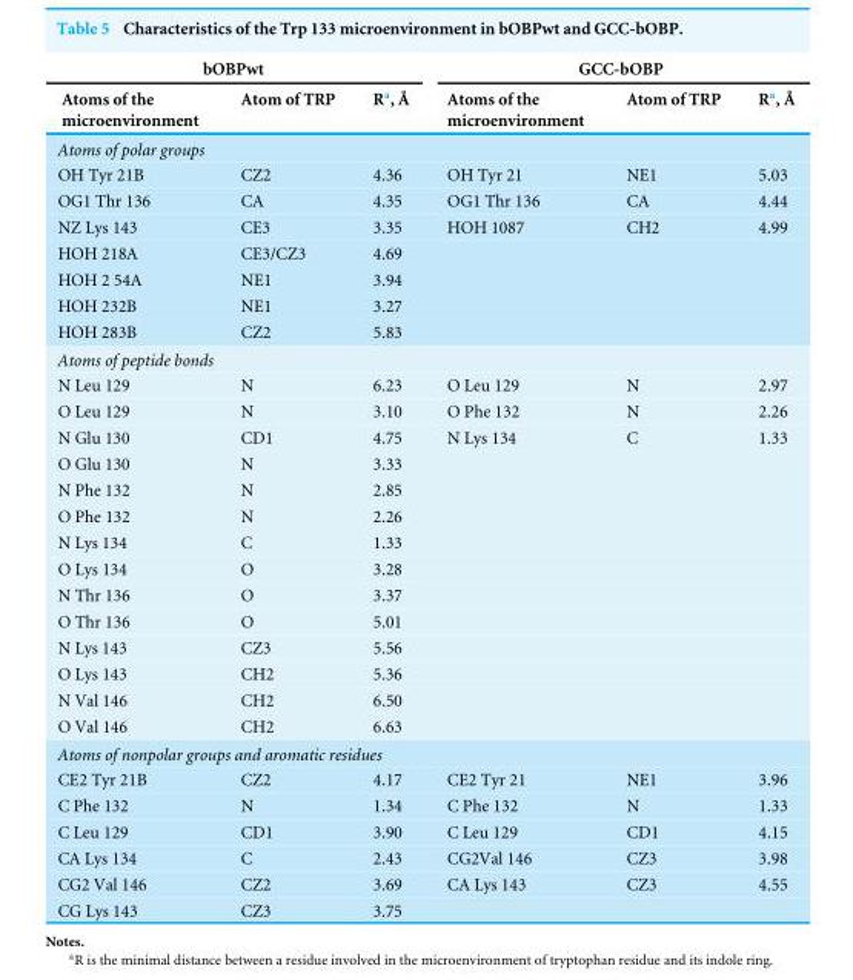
<table><thead><tr><td colspan="3">bOBPwt</td><td colspan="3">GCC-bOBP</td></tr><tr><td>Atoms of the microenvironment</td><td>Atom of TRP</td><td>R<sup>a</sup>, Å</td><td>Atoms of the microenvironment</td><td>Atom of TRP</td><td>R<sup>a</sup>, Å</td></tr></thead><tbody><tr><td colspan="6">Atoms of polar groups</td></tr><tr><td>OH Tyr 21B</td><td>CZ2</td><td>4.36</td><td>OH Tyr 21</td><td>NE1</td><td>5.03</td></tr><tr><td>OG1 Thr 136</td><td>CA</td><td>4.35</td><td>OG1 Thr 136</td><td>CA</td><td>4.44</td></tr><tr><td>NZ Lys 143</td><td>CE3</td><td>3.35</td><td>HOH 1087</td><td>CH2</td><td>4.99</td></tr><tr><td>HOH 218A</td><td>CE3/CZ3</td><td>4.69</td><td></td><td></td><td></td></tr><tr><td>HOH 2 54A</td><td>NE1</td><td>3.94</td><td></td><td></td><td></td></tr><tr><td>HOH 232B</td><td>NE1</td><td>3.27</td><td></td><td></td><td></td></tr><tr><td>HOH 283B</td><td>CZ2</td><td>5.83</td><td></td><td></td><td></td></tr><tr><td colspan="6">Atoms of peptide bonds</td></tr><tr><td>N Leu 129</td><td>N</td><td>6.23</td><td>O Leu 129</td><td>N</td><td>2.97</td></tr><tr><td>O Leu 129</td><td>N</td><td>3.10</td><td>O Phe 132</td><td>N</td><td>2.26</td></tr><tr><td>N Glu 130</td><td>CD1</td><td>4.75</td><td>N Lys 134</td><td>C</td><td>1.33</td></tr><tr><td>O Glu 130</td><td>N</td><td>3.33</td><td></td><td></td><td></td></tr><tr><td>N Phe 132</td><td>N</td><td>2.85</td><td></td><td></td><td></td></tr><tr><td>O Phe 132</td><td>N</td><td>2.26</td><td></td><td></td><td></td></tr><tr><td>N Lys 134</td><td>C</td><td>1.33</td><td></td><td></td><td></td></tr><tr><td>O Lys 134</td><td>O</td><td>3.28</td><td></td><td></td><td></td></tr><tr><td>N Thr 136</td><td>O</td><td>3.37</td><td></td><td></td><td></td></tr><tr><td>O Thr 136</td><td>O</td><td>5.01</td><td></td><td></td><td></td></tr><tr><td>N Lys 143</td><td>CZ3</td><td>5.56</td><td></td><td></td><td></td></tr><tr><td>O Lys 143</td><td>CH2</td><td>5.36</td><td></td><td></td><td></td></tr><tr><td>N Val 146</td><td>CH2</td><td>6.50</td><td></td><td></td><td></td></tr><tr><td>O Val 146</td><td>CH2</td><td>6.63</td><td></td><td></td><td></td></tr><tr><td colspan="6">Atoms of nonpolar groups and aromatic residues</td></tr><tr><td>CE2 Tyr 21B</td><td>CZ2</td><td>4.17</td><td>CE2 Tyr 21</td><td>NE1</td><td>3.96</td></tr><tr><td>C Phe 132</td><td>N</td><td>1.34</td><td>C Phe 132</td><td>N</td><td>1.33</td></tr><tr><td>C Leu 129</td><td>CD1</td><td>3.90</td><td>C Leu 129</td><td>CD1</td><td>4.15</td></tr><tr><td>CA Lys 134</td><td>C</td><td>2.43</td><td>CG2Val 146</td><td>CZ3</td><td>3.98</td></tr><tr><td>CG2 Val 146</td><td>CZ2</td><td>3.69</td><td>CA Lys 143</td><td>CZ3</td><td>4.55</td></tr><tr><td>CG Lys 143</td><td>CZ3</td><td>3.75</td><td></td><td></td><td></td></tr></tbody></table>